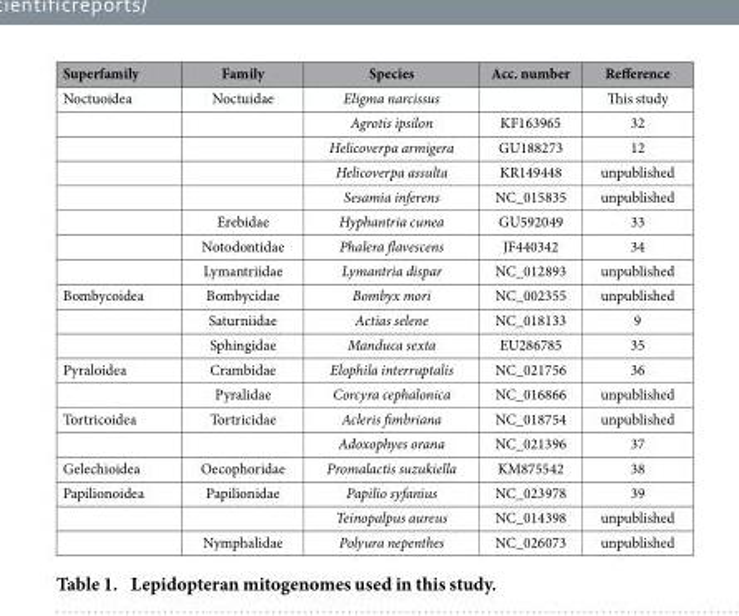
<table><thead><tr><td>Superfamily</td><td>Family</td><td>Species</td><td>Acc. number</td><td>Refference</td></tr></thead><tbody><tr><td rowspan="8">Noctuoidea</td><td>Noctuidae</td><td>Eligma narcissus</td><td></td><td>This study</td></tr><tr><td></td><td>Agrotis ipsilon</td><td>KF163965</td><td>32</td></tr><tr><td></td><td>Helicoverpa armigera</td><td>GU188273</td><td>12</td></tr><tr><td></td><td>Helicoverpa assulta</td><td>KR149448</td><td>unpublished</td></tr><tr><td></td><td>Sesamia inferens</td><td>NC_015835</td><td>unpublished</td></tr><tr><td>Erebidae</td><td>Hyphantria cunea</td><td>GU592049</td><td>33</td></tr><tr><td>Notodontidae</td><td>Phalera flavescens</td><td>JF440342</td><td>34</td></tr><tr><td>Lymantriidae</td><td>Lymantria dispar</td><td>NC_012893</td><td>unpublished</td></tr><tr><td rowspan="3">Bombycoidea</td><td>Bombycidae</td><td>Bombyx mori</td><td>NC_002355</td><td>unpublished</td></tr><tr><td>Saturniidae</td><td>Actias selene</td><td>NC_018133</td><td>9</td></tr><tr><td>Sphingidae</td><td>Manduca sexta</td><td>EU286785</td><td>35</td></tr><tr><td rowspan="2">Pyraloidea</td><td>Crambidae</td><td>Elophila interruptalis</td><td>NC_021756</td><td>36</td></tr><tr><td>Pyralidae</td><td>Corcyra cephalonica</td><td>NC_016866</td><td>unpublished</td></tr><tr><td rowspan="2">Tortricoidea</td><td>Tortricidae</td><td>Acleris fimbriana</td><td>NC_018754</td><td>unpublished</td></tr><tr><td></td><td>Adoxophyes orana</td><td>NC_021396</td><td>37</td></tr><tr><td>Gelechioidea</td><td>Oecophoridae</td><td>Promalactis suzukiella</td><td>KM875542</td><td>38</td></tr><tr><td rowspan="3">Papilionoidea</td><td>Papilionidae</td><td>Papilio syfanius</td><td>NC_023978</td><td>39</td></tr><tr><td></td><td>Teinopalpus aureus</td><td>NC_014398</td><td>unpublished</td></tr><tr><td>Nymphalidae</td><td>Polyura nepenthes</td><td>NC_026073</td><td>unpublished</td></tr></tbody></table>